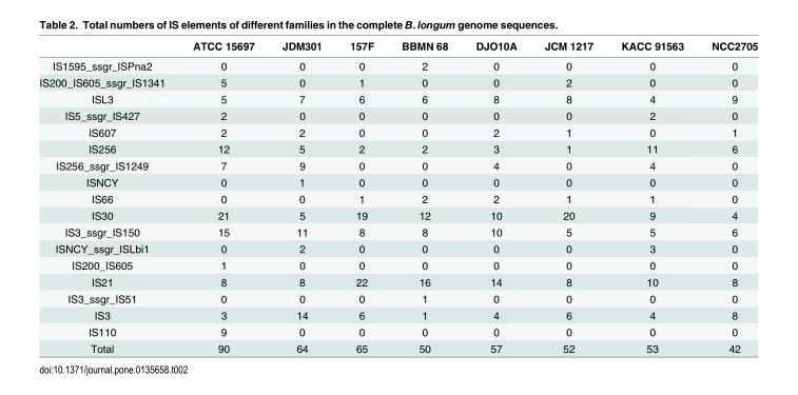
<table><thead><tr><td></td><td>ATCC 15697</td><td>JDM301</td><td>157F</td><td>BBMN 68</td><td>DJO10A</td><td>JCM 1217</td><td>KACC 91563</td><td>NCC2705</td></tr></thead><tbody><tr><td>IS1595_ssgr_ISPna2</td><td>0</td><td>0</td><td>0</td><td>2</td><td>0</td><td>0</td><td>0</td><td>0</td></tr><tr><td>IS200_IS605_ssgr_IS1341</td><td>5</td><td>0</td><td>1</td><td>0</td><td>0</td><td>2</td><td>0</td><td>0</td></tr><tr><td>ISL3</td><td>5</td><td>7</td><td>6</td><td>6</td><td>8</td><td>8</td><td>4</td><td>9</td></tr><tr><td>IS5_ssgr_IS427</td><td>2</td><td>0</td><td>0</td><td>0</td><td>0</td><td>0</td><td>2</td><td>0</td></tr><tr><td>IS607</td><td>2</td><td>2</td><td>0</td><td>0</td><td>2</td><td>1</td><td>0</td><td>1</td></tr><tr><td>IS256</td><td>12</td><td>5</td><td>2</td><td>2</td><td>3</td><td>1</td><td>11</td><td>6</td></tr><tr><td>IS256_ssgr_IS1249</td><td>7</td><td>9</td><td>0</td><td>0</td><td>4</td><td>0</td><td>4</td><td>0</td></tr><tr><td>ISNCY</td><td>0</td><td>1</td><td>0</td><td>0</td><td>0</td><td>0</td><td>0</td><td>0</td></tr><tr><td>IS66</td><td>0</td><td>0</td><td>1</td><td>2</td><td>2</td><td>1</td><td>1</td><td>0</td></tr><tr><td>IS30</td><td>21</td><td>5</td><td>19</td><td>12</td><td>10</td><td>20</td><td>9</td><td>4</td></tr><tr><td>IS3_ssgr_IS150</td><td>15</td><td>11</td><td>8</td><td>8</td><td>10</td><td>5</td><td>5</td><td>6</td></tr><tr><td>ISNCY_ssgr_ISLbi1</td><td>0</td><td>2</td><td>0</td><td>0</td><td>0</td><td>0</td><td>3</td><td>0</td></tr><tr><td>IS200_IS605</td><td>1</td><td>0</td><td>0</td><td>0</td><td>0</td><td>0</td><td>0</td><td>0</td></tr><tr><td>IS21</td><td>8</td><td>8</td><td>22</td><td>16</td><td>14</td><td>8</td><td>10</td><td>8</td></tr><tr><td>IS3_ssgr_IS51</td><td>0</td><td>0</td><td>0</td><td>1</td><td>0</td><td>0</td><td>0</td><td>0</td></tr><tr><td>IS3</td><td>3</td><td>14</td><td>6</td><td>1</td><td>4</td><td>6</td><td>4</td><td>8</td></tr><tr><td>IS110</td><td>9</td><td>0</td><td>0</td><td>0</td><td>0</td><td>0</td><td>0</td><td>0</td></tr><tr><td>Total</td><td>90</td><td>64</td><td>65</td><td>50</td><td>57</td><td>52</td><td>53</td><td>42</td></tr></tbody></table>